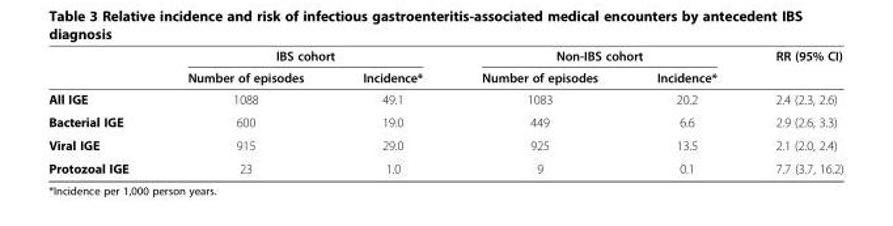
<table><thead><tr><td rowspan="2"></td><td colspan="2">IBS cohort</td><td colspan="2">Non-IBS cohort</td><td rowspan="2">RR (95% CI)</td></tr><tr><td>Number of episodes</td><td>Incidence*</td><td>Number of episodes</td><td>Incidence*</td></tr></thead><tbody><tr><td>All IGE</td><td>1088</td><td>49.1</td><td>1083</td><td>20.2</td><td>2.4 (2.3, 2.6)</td></tr><tr><td>Bacterial IGE</td><td>600</td><td>19.0</td><td>449</td><td>6.6</td><td>2.9 (2.6, 3.3)</td></tr><tr><td>Viral IGE</td><td>915</td><td>29.0</td><td>925</td><td>13.5</td><td>2.1 (2.0, 2.4)</td></tr><tr><td>Protozoal IGE</td><td>23</td><td>1.0</td><td>9</td><td>0.1</td><td>7.7 (3.7, 16.2)</td></tr></tbody></table>